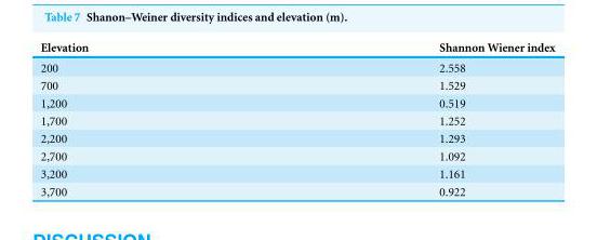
<table><thead><tr><td>Elevation</td><td>Shannon Wiener index</td></tr></thead><tbody><tr><td>200</td><td>2.558</td></tr><tr><td>700</td><td>1.529</td></tr><tr><td>1,200</td><td>0.519</td></tr><tr><td>1,700</td><td>1.252</td></tr><tr><td>2,200</td><td>1.293</td></tr><tr><td>2,700</td><td>1.092</td></tr><tr><td>3,200</td><td>1.161</td></tr><tr><td>3,700</td><td>0.922</td></tr></tbody></table>